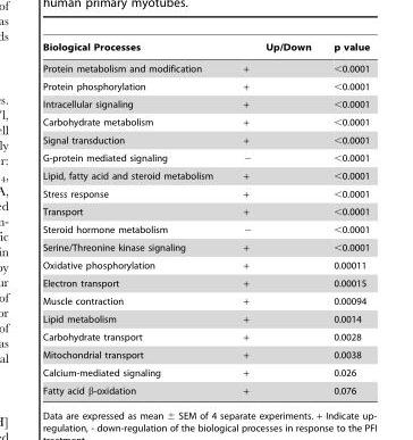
<table><thead><tr><td>Biological Processes</td><td>Up/Down</td><td>p value</td></tr></thead><tbody><tr><td>Protein metabolism and modification</td><td>+</td><td>&lt;0.0001</td></tr><tr><td>Protein phosphorylation</td><td>+</td><td>&lt;0.0001</td></tr><tr><td>Intracellular signaling</td><td>+</td><td>&lt;0.0001</td></tr><tr><td>Carbohydrate metabolism</td><td>+</td><td>&lt;0.0001</td></tr><tr><td>Signal transduction</td><td>+</td><td>&lt;0.0001</td></tr><tr><td>G-protein mediated signaling</td><td>−</td><td>&lt;0.0001</td></tr><tr><td>Lipid, fatty acid and steroid metabolism</td><td>+</td><td>&lt;0.0001</td></tr><tr><td>Stress response</td><td>+</td><td>&lt;0.0001</td></tr><tr><td>Transport</td><td>+</td><td>&lt;0.0001</td></tr><tr><td>Steroid hormone metabolism</td><td>−</td><td>&lt;0.0001</td></tr><tr><td>Serine/Threonine kinase signaling</td><td>+</td><td>&lt;0.0001</td></tr><tr><td>Oxidative phosphorylation</td><td>+</td><td>0.00011</td></tr><tr><td>Electron transport</td><td>+</td><td>0.00015</td></tr><tr><td>Muscle contraction</td><td>+</td><td>0.00094</td></tr><tr><td>Lipid metabolism</td><td>+</td><td>0.0014</td></tr><tr><td>Carbohydrate transport</td><td>+</td><td>0.0028</td></tr><tr><td>Mitochondrial transport</td><td>+</td><td>0.0038</td></tr><tr><td>Calcium-mediated signaling</td><td>+</td><td>0.026</td></tr><tr><td>Fatty acid β-oxidation</td><td>+</td><td>0.076</td></tr></tbody></table>